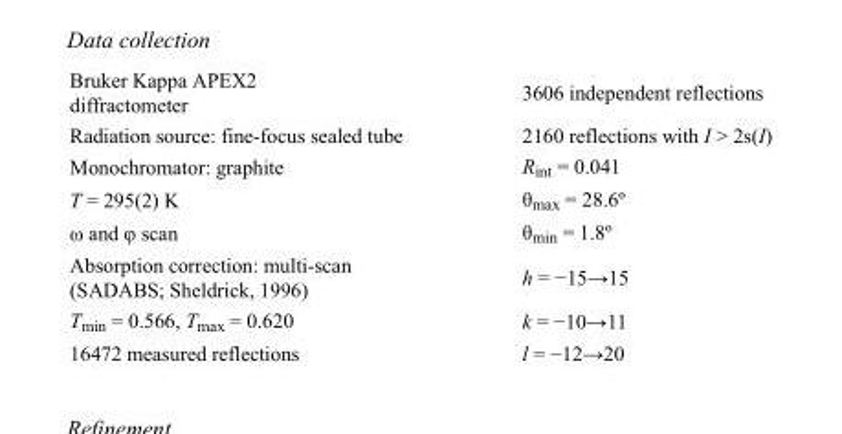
<table><tbody><tr><td>Bruker Kappa APEX2 diffractometer</td><td>3606 independent reflections</td></tr><tr><td>Radiation source: fine-focus sealed tube</td><td>2160 reflections with I &gt; 2s(I)</td></tr><tr><td>Monochromator: graphite</td><td>R<sub>int</sub> = 0.041</td></tr><tr><td>T = 295(2) K</td><td>θ<sub>max</sub> = 28.6º</td></tr><tr><td>ω and φ scan</td><td>θ<sub>min</sub> = 1.8º</td></tr><tr><td>Absorption correction: multi-scan (SADABS; Sheldrick, 1996)</td><td>h = −15→15</td></tr><tr><td>T<sub>min</sub> = 0.566, T<sub>max</sub> = 0.620</td><td>k = −10→11</td></tr><tr><td>16472 measured reflections</td><td>l = −12→20</td></tr></tbody></table>